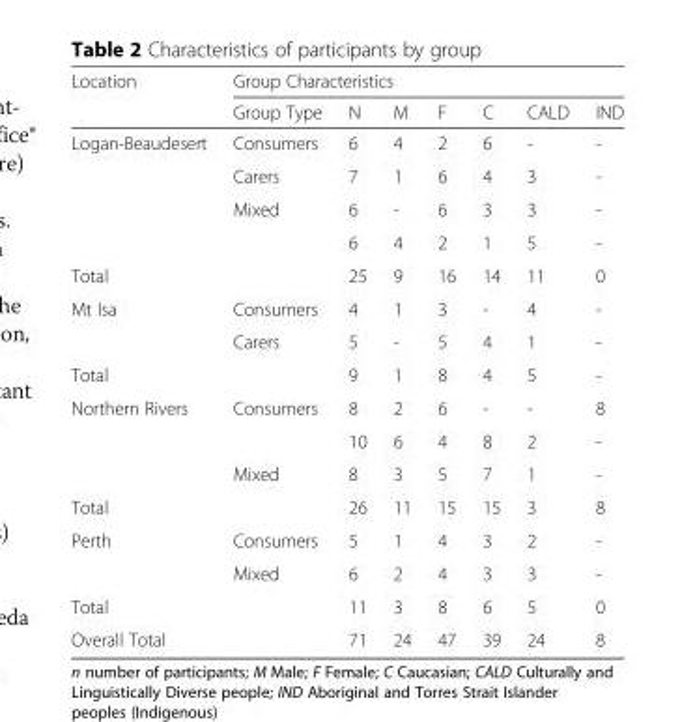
<table><thead><tr><td rowspan="2">Location</td><td colspan="7">Group Characteristics</td></tr><tr><td>Group Type</td><td>N</td><td>M</td><td>F</td><td>C</td><td>CALD</td><td>IND</td></tr></thead><tbody><tr><td rowspan="4">Logan-Beaudesert</td><td>Consumers</td><td>6</td><td>4</td><td>2</td><td>6</td><td>-</td><td>-</td></tr><tr><td>Carers</td><td>7</td><td>1</td><td>6</td><td>4</td><td>3</td><td>-</td></tr><tr><td rowspan="2">Mixed</td><td>6</td><td>-</td><td>6</td><td>3</td><td>3</td><td>-</td></tr><tr><td>6</td><td>4</td><td>2</td><td>1</td><td>5</td><td>-</td></tr><tr><td>Total</td><td></td><td>25</td><td>9</td><td>16</td><td>14</td><td>11</td><td>0</td></tr><tr><td rowspan="2">Mt Isa</td><td>Consumers</td><td>4</td><td>1</td><td>3</td><td>-</td><td>4</td><td>-</td></tr><tr><td>Carers</td><td>5</td><td>-</td><td>5</td><td>4</td><td>1</td><td>-</td></tr><tr><td>Total</td><td></td><td>9</td><td>1</td><td>8</td><td>4</td><td>5</td><td>-</td></tr><tr><td rowspan="3">Northern Rivers</td><td rowspan="2">Consumers</td><td>8</td><td>2</td><td>6</td><td>-</td><td>-</td><td>8</td></tr><tr><td>10</td><td>6</td><td>4</td><td>8</td><td>2</td><td>-</td></tr><tr><td>Mixed</td><td>8</td><td>3</td><td>5</td><td>7</td><td>1</td><td>-</td></tr><tr><td>Total</td><td></td><td>26</td><td>11</td><td>15</td><td>15</td><td>3</td><td>8</td></tr><tr><td rowspan="2">Perth</td><td>Consumers</td><td>5</td><td>1</td><td>4</td><td>3</td><td>2</td><td>-</td></tr><tr><td>Mixed</td><td>6</td><td>2</td><td>4</td><td>3</td><td>3</td><td>-</td></tr><tr><td>Total</td><td></td><td>11</td><td>3</td><td>8</td><td>6</td><td>5</td><td>0</td></tr><tr><td>Overall Total</td><td></td><td>71</td><td>24</td><td>47</td><td>39</td><td>24</td><td>8</td></tr></tbody></table>